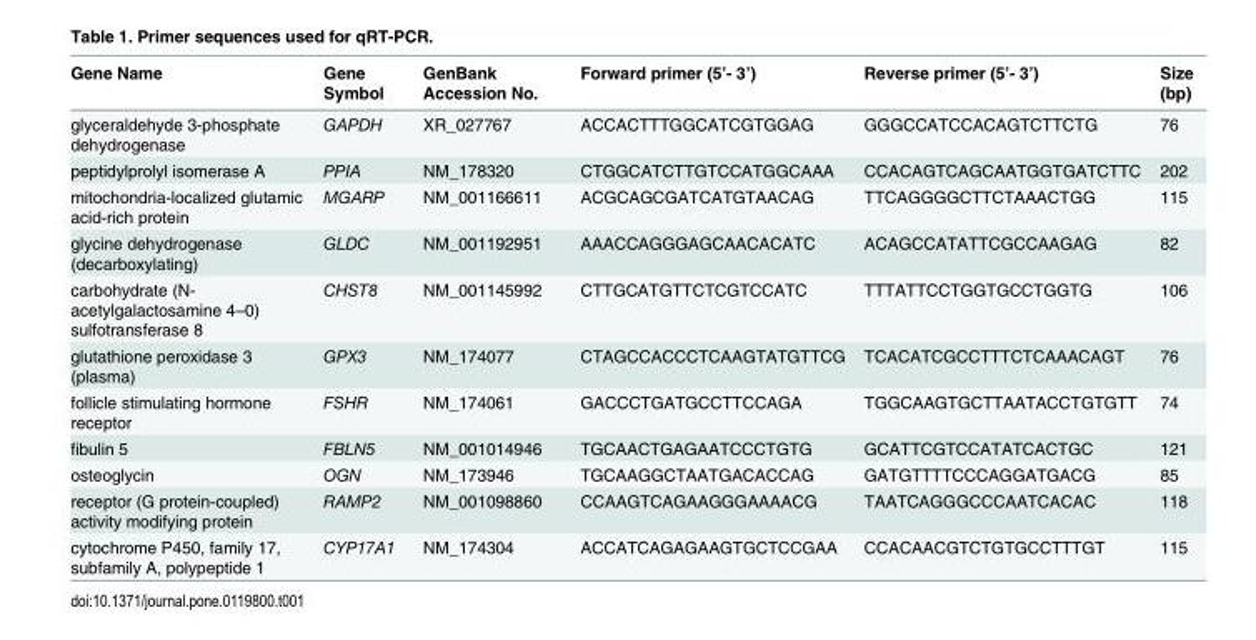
<table><thead><tr><td>Gene Name</td><td>Gene Symbol</td><td>GenBank Accession No.</td><td>Forward primer (5’- 3’)</td><td>Reverse primer (5’- 3’)</td><td>Size (bp)</td></tr></thead><tbody><tr><td>glyceraldehyde 3-phosphate dehydrogenase</td><td>GAPDH</td><td>XR_027767</td><td>ACCACTTTGGCATCGTGGAG</td><td>GGGCCATCCACAGTCTTCTG</td><td>76</td></tr><tr><td>peptidylprolyl isomerase A</td><td>PPIA</td><td>NM_178320</td><td>CTGGCATCTTGTCCATGGCAAA</td><td>CCACAGTCAGCAATGGTGATCTTC</td><td>202</td></tr><tr><td>mitochondria-localized glutamic acid-rich protein</td><td>MGARP</td><td>NM_001166611</td><td>ACGCAGCGATCATGTAACAG</td><td>TTCAGGGGCTTCTAAACTGG</td><td>115</td></tr><tr><td>glycine dehydrogenase (decarboxylating)</td><td>GLDC</td><td>NM_001192951</td><td>AAACCAGGGAGCAACACATC</td><td>ACAGCCATATTCGCCAAGAG</td><td>82</td></tr><tr><td>carbohydrate (N- acetylgalactosamine 4–0) sulfotransferase 8</td><td>CHST8</td><td>NM_001145992</td><td>CTTGCATGTTCTCGTCCATC</td><td>TTTATTCCTGGTGCCTGGTG</td><td>106</td></tr><tr><td>glutathione peroxidase 3 (plasma)</td><td>GPX3</td><td>NM_174077</td><td>CTAGCCACCCTCAAGTATGTTCG</td><td>TCACATCGCCTTTCTCAAACAGT</td><td>76</td></tr><tr><td>follicle stimulating hormone receptor</td><td>FSHR</td><td>NM_174061</td><td>GACCCTGATGCCTTCCAGA</td><td>TGGCAAGTGCTTAATACCTGTGTT</td><td>74</td></tr><tr><td>fibulin 5</td><td>FBLN5</td><td>NM_001014946</td><td>TGCAACTGAGAATCCCTGTG</td><td>GCATTCGTCCATATCACTGC</td><td>121</td></tr><tr><td>osteoglycin</td><td>OGN</td><td>NM_173946</td><td>TGCAAGGCTAATGACACCAG</td><td>GATGTTTTCCCAGGATGACG</td><td>85</td></tr><tr><td>receptor (G protein-coupled) activity modifying protein</td><td>RAMP2</td><td>NM_001098860</td><td>CCAAGTCAGAAGGGAAAACG</td><td>TAATCAGGGCCCAATCACAC</td><td>118</td></tr><tr><td>cytochrome P450, family 17, subfamily A, polypeptide 1</td><td>CYP17A1</td><td>NM_174304</td><td>ACCATCAGAGAAGTGCTCCGAA</td><td>CCACAACGTCTGTGCCTTTGT</td><td>115</td></tr></tbody></table>